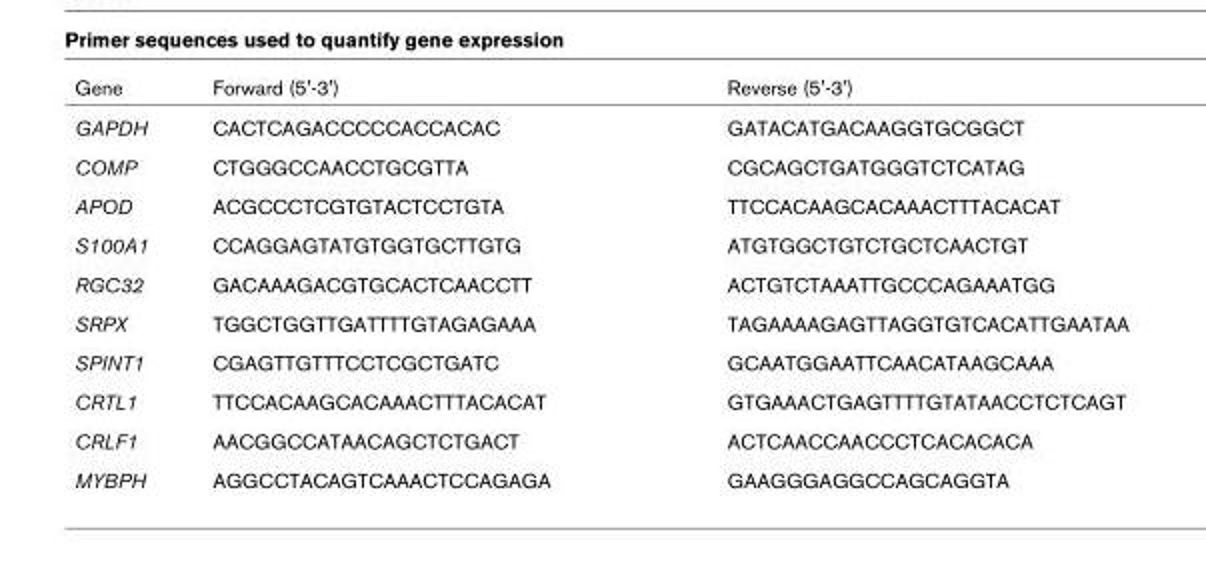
<table><thead><tr><td>Gene</td><td>Forward (5&#x27;-3&#x27;)</td><td>Reverse (5&#x27;-3&#x27;)</td></tr></thead><tbody><tr><td>GAPDH</td><td>CACTCAGACCCCCACCACAC</td><td>GATACATGACAAGGTGCGGCT</td></tr><tr><td>COMP</td><td>CTGGGCCAACCTGCGTTA</td><td>CGCAGCTGATGGGTCTCATAG</td></tr><tr><td>APOD</td><td>ACGCCCTCGTGTACTCCTGTA</td><td>TTCCACAAGCACAAACTTTACACAT</td></tr><tr><td>S100A1</td><td>CCAGGAGTATGTGGTGCTTGTG</td><td>ATGTGGCTGTCTGCTCAACTGT</td></tr><tr><td>RGC32</td><td>GACAAAGACGTGCACTCAACCTT</td><td>ACTGTCTAAATTGCCCAGAAATGG</td></tr><tr><td>SRPX</td><td>TGGCTGGTTGATTTTGTAGAGAAA</td><td>TAGAAAAGAGTTAGGTGTCACATTGAATAA</td></tr><tr><td>SPINT1</td><td>CGAGTTGTTTCCTCGCTGATC</td><td>GCAATGGAATTCAACATAAGCAAA</td></tr><tr><td>CRTL1</td><td>TTCCACAAGCACAAACTTTACACAT</td><td>GTGAAACTGAGTTTTGTATAACCTCTCAGT</td></tr><tr><td>CRLF1</td><td>AACGGCCATAACAGCTCTGACT</td><td>ACTCAACCAACCCTCACACACA</td></tr><tr><td>MYBPH</td><td>AGGCCTACAGTCAAACTCCAGAGA</td><td>GAAGGGAGGCCAGCAGGTA</td></tr></tbody></table>